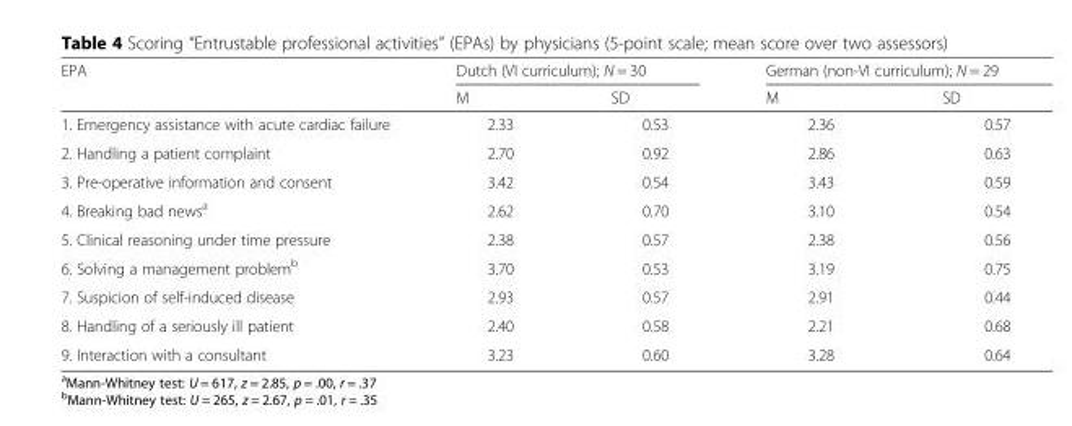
<table><thead><tr><td rowspan="2">EPA</td><td colspan="2">Dutch (VI curriculum); N = 30</td><td colspan="2">German (non-VI curriculum); N = 29</td></tr><tr><td>M</td><td>SD</td><td>M</td><td>SD</td></tr></thead><tbody><tr><td>1. Emergency assistance with acute cardiac failure</td><td>2.33</td><td>0.53</td><td>2.36</td><td>0.57</td></tr><tr><td>2. Handling a patient complaint</td><td>2.70</td><td>0.92</td><td>2.86</td><td>0.63</td></tr><tr><td>3. Pre-operative information and consent</td><td>3.42</td><td>0.54</td><td>3.43</td><td>0.59</td></tr><tr><td>4. Breaking bad news<sup>a</sup></td><td>2.62</td><td>0.70</td><td>3.10</td><td>0.54</td></tr><tr><td>5. Clinical reasoning under time pressure</td><td>2.38</td><td>0.57</td><td>2.38</td><td>0.56</td></tr><tr><td>6. Solving a management problem<sup>b</sup></td><td>3.70</td><td>0.53</td><td>3.19</td><td>0.75</td></tr><tr><td>7. Suspicion of self-induced disease</td><td>2.93</td><td>0.57</td><td>2.91</td><td>0.44</td></tr><tr><td>8. Handling of a seriously ill patient</td><td>2.40</td><td>0.58</td><td>2.21</td><td>0.68</td></tr><tr><td>9. Interaction with a consultant</td><td>3.23</td><td>0.60</td><td>3.28</td><td>0.64</td></tr></tbody></table>